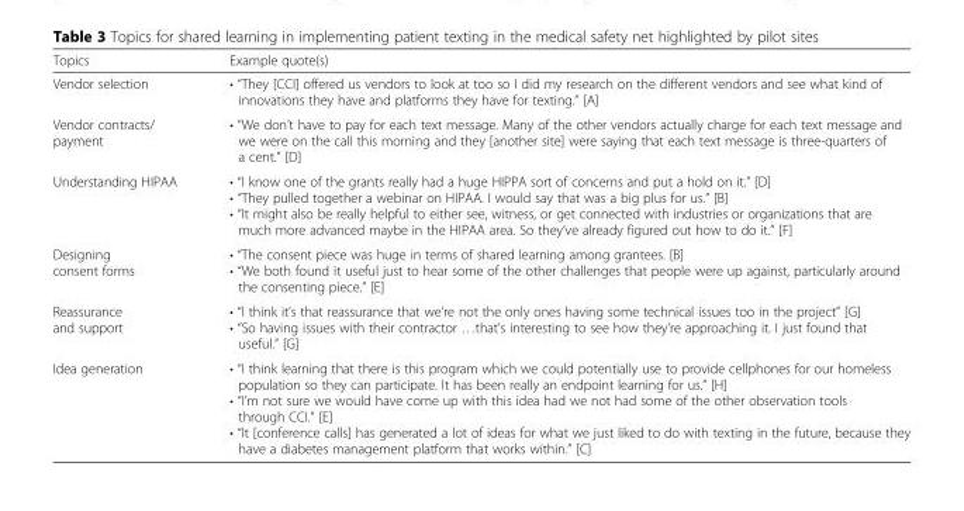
<table><thead><tr><td>Topics</td><td>Example quote(s)</td></tr></thead><tbody><tr><td>Vendor selection</td><td>• “They [CCI] offered us vendors to look at too so I did my research on the different vendors and see what kind of innovations they have and platforms they have for texting.” [A]</td></tr><tr><td>Vendor contracts/ payment</td><td>• “We don’t have to pay for each text message. Many of the other vendors actually charge for each text message and we were on the call this morning and they [another site] were saying that each text message is three-quarters of a cent.” [D]</td></tr><tr><td>Understanding HIPAA</td><td>• “I know one of the grants really had a huge HIPPA sort of concerns and put a hold on it.” [D] • “They pulled together a webinar on HIPAA. I would say that was a big plus for us.” [B] • “It might also be really helpful to either see, witness, or get connected with industries or organizations that are much more advanced maybe in the HIPAA area. So they’ve already figured out how to do it.” [F]</td></tr><tr><td>Designing consent forms</td><td>• “The consent piece was huge in terms of shared learning among grantees. [B] • “We both found it useful just to hear some of the other challenges that people were up against, particularly around the consenting piece.” [E]</td></tr><tr><td>Reassurance and support</td><td>• “I think it’s that reassurance that we’re not the only ones having some technical issues too in the project” [G] • “So having issues with their contractor …that’s interesting to see how they’re approaching it. I just found that useful.” [G]</td></tr><tr><td>Idea generation</td><td>• “I think learning that there is this program which we could potentially use to provide cellphones for our homeless population so they can participate. It has been really an endpoint learning for us.” [H] • “I’m not sure we would have come up with this idea had we not had some of the other observation tools through CCI.” [E] • “It [conference calls] has generated a lot of ideas for what we just liked to do with texting in the future, because they have a diabetes management platform that works within.” [C]</td></tr></tbody></table>